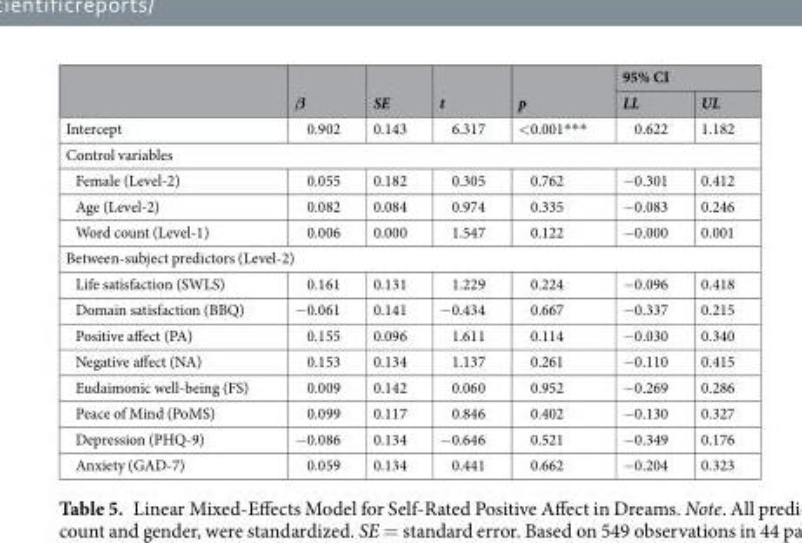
<table><thead><tr><td rowspan="2"></td><td rowspan="2">β</td><td rowspan="2">SE</td><td rowspan="2">t</td><td rowspan="2">p</td><td colspan="2">95% CI</td></tr><tr><td>LL</td><td>UL</td></tr></thead><tbody><tr><td>Intercept</td><td>0.902</td><td>0.143</td><td>6.317</td><td>&lt;0.001***</td><td>0.622</td><td>1.182</td></tr><tr><td colspan="7">Control variables</td></tr><tr><td>Female (Level-2)</td><td>0.055</td><td>0.182</td><td>0.305</td><td>0.762</td><td>−0.301</td><td>0.412</td></tr><tr><td>Age (Level-2)</td><td>0.082</td><td>0.084</td><td>0.974</td><td>0.335</td><td>−0.083</td><td>0.246</td></tr><tr><td>Word count (Level-1)</td><td>0.006</td><td>0.000</td><td>1.547</td><td>0.122</td><td>−0.000</td><td>0.001</td></tr><tr><td colspan="7">Between-subject predictors (Level-2)</td></tr><tr><td>Life satisfaction (SWLS)</td><td>0.161</td><td>0.131</td><td>1.229</td><td>0.224</td><td>−0.096</td><td>0.418</td></tr><tr><td>Domain satisfaction (BBQ)</td><td>−0.061</td><td>0.141</td><td>−0.434</td><td>0.667</td><td>−0.337</td><td>0.215</td></tr><tr><td>Positive affect (PA)</td><td>0.155</td><td>0.096</td><td>1.611</td><td>0.114</td><td>−0.030</td><td>0.340</td></tr><tr><td>Negative affect (NA)</td><td>0.153</td><td>0.134</td><td>1.137</td><td>0.261</td><td>−0.110</td><td>0.415</td></tr><tr><td>Eudaimonic well-being (FS)</td><td>0.009</td><td>0.142</td><td>0.060</td><td>0.952</td><td>−0.269</td><td>0.286</td></tr><tr><td>Peace of Mind (PoMS)</td><td>0.099</td><td>0.117</td><td>0.846</td><td>0.402</td><td>−0.130</td><td>0.327</td></tr><tr><td>Depression (PHQ-9)</td><td>−0.086</td><td>0.134</td><td>−0.646</td><td>0.521</td><td>−0.349</td><td>0.176</td></tr><tr><td>Anxiety (GAD-7)</td><td>0.059</td><td>0.134</td><td>0.441</td><td>0.662</td><td>−0.204</td><td>0.323</td></tr></tbody></table>